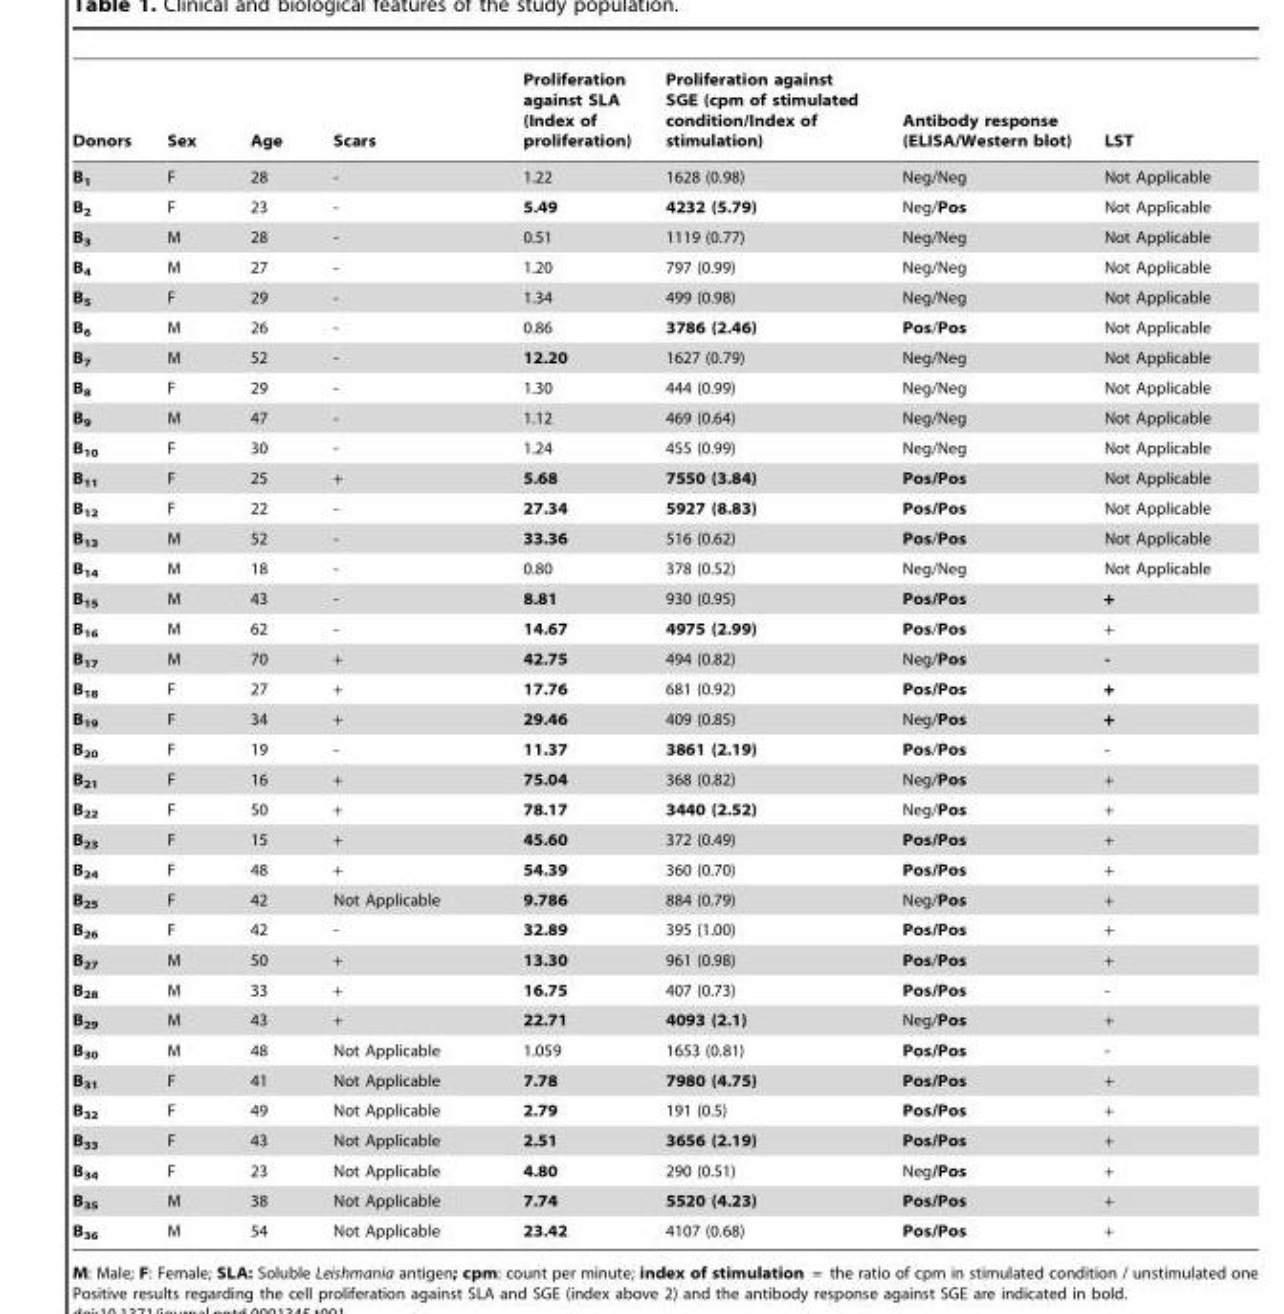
<table><thead><tr><td>Donors</td><td>Sex</td><td>Age</td><td>Scars</td><td>Proliferation against SLA (Index of proliferation)</td><td>Proliferation against SGE (cpm of stimulated condition/Index of stimulation)</td><td>Antibody response (ELISA/Western blot)</td><td>LST</td></tr></thead><tbody><tr><td>B<sub>1</sub></td><td>F</td><td>28</td><td>-</td><td>1.22</td><td>1628 (0.98)</td><td>Neg/Neg</td><td>Not Applicable</td></tr><tr><td>B<sub>2</sub></td><td>F</td><td>23</td><td>-</td><td>5.49</td><td>4232 (5.79)</td><td>Neg/Pos</td><td>Not Applicable</td></tr><tr><td>B<sub>3</sub></td><td>M</td><td>28</td><td>-</td><td>0.51</td><td>1119 (0.77)</td><td>Neg/Neg</td><td>Not Applicable</td></tr><tr><td>B<sub>4</sub></td><td>M</td><td>27</td><td>-</td><td>1.20</td><td>797 (0.99)</td><td>Neg/Neg</td><td>Not Applicable</td></tr><tr><td>B<sub>5</sub></td><td>F</td><td>29</td><td>-</td><td>1.34</td><td>499 (0.98)</td><td>Neg/Neg</td><td>Not Applicable</td></tr><tr><td>B<sub>6</sub></td><td>M</td><td>26</td><td>-</td><td>0.86</td><td>3786 (2.46)</td><td>Pos/Pos</td><td>Not Applicable</td></tr><tr><td>B<sub>7</sub></td><td>M</td><td>52</td><td>-</td><td>12.20</td><td>1627 (0.79)</td><td>Neg/Neg</td><td>Not Applicable</td></tr><tr><td>B<sub>8</sub></td><td>F</td><td>29</td><td>-</td><td>1.30</td><td>444 (0.99)</td><td>Neg/Neg</td><td>Not Applicable</td></tr><tr><td>B<sub>9</sub></td><td>M</td><td>47</td><td>-</td><td>1.12</td><td>469 (0.64)</td><td>Neg/Neg</td><td>Not Applicable</td></tr><tr><td>B<sub>10</sub></td><td>F</td><td>30</td><td>-</td><td>1.24</td><td>455 (0.99)</td><td>Neg/Neg</td><td>Not Applicable</td></tr><tr><td>B<sub>11</sub></td><td>F</td><td>25</td><td>+</td><td>5.68</td><td>7550 (3.84)</td><td>Pos/Pos</td><td>Not Applicable</td></tr><tr><td>B<sub>12</sub></td><td>F</td><td>22</td><td>-</td><td>27.34</td><td>5927 (8.83)</td><td>Pos/Pos</td><td>Not Applicable</td></tr><tr><td>B<sub>13</sub></td><td>M</td><td>52</td><td>-</td><td>33.36</td><td>516 (0.62)</td><td>Pos/Pos</td><td>Not Applicable</td></tr><tr><td>B<sub>14</sub></td><td>M</td><td>18</td><td>-</td><td>0.80</td><td>378 (0.52)</td><td>Neg/Neg</td><td>Not Applicable</td></tr><tr><td>B<sub>15</sub></td><td>M</td><td>43</td><td>-</td><td>8.81</td><td>930 (0.95)</td><td>Pos/Pos</td><td>+</td></tr><tr><td>B<sub>16</sub></td><td>M</td><td>62</td><td>-</td><td>14.67</td><td>4975 (2.99)</td><td>Pos/Pos</td><td>+</td></tr><tr><td>B<sub>17</sub></td><td>M</td><td>70</td><td>+</td><td>42.75</td><td>494 (0.82)</td><td>Neg/Pos</td><td>-</td></tr><tr><td>B<sub>18</sub></td><td>F</td><td>27</td><td>+</td><td>17.76</td><td>681 (0.92)</td><td>Pos/Pos</td><td>+</td></tr><tr><td>B<sub>19</sub></td><td>F</td><td>34</td><td>+</td><td>29.46</td><td>409 (0.85)</td><td>Neg/Pos</td><td>+</td></tr><tr><td>B<sub>20</sub></td><td>F</td><td>19</td><td>-</td><td>11.37</td><td>3861 (2.19)</td><td>Pos/Pos</td><td>-</td></tr><tr><td>B<sub>21</sub></td><td>F</td><td>16</td><td>+</td><td>75.04</td><td>368 (0.82)</td><td>Neg/Pos</td><td>+</td></tr><tr><td>B<sub>22</sub></td><td>F</td><td>50</td><td>+</td><td>78.17</td><td>3440 (2.52)</td><td>Neg/Pos</td><td>+</td></tr><tr><td>B<sub>23</sub></td><td>F</td><td>15</td><td>+</td><td>45.60</td><td>372 (0.49)</td><td>Pos/Pos</td><td>+</td></tr><tr><td>B<sub>24</sub></td><td>F</td><td>48</td><td>+</td><td>54.39</td><td>360 (0.70)</td><td>Pos/Pos</td><td>+</td></tr><tr><td>B<sub>25</sub></td><td>F</td><td>42</td><td>Not Applicable</td><td>9.786</td><td>884 (0.79)</td><td>Neg/Pos</td><td>+</td></tr><tr><td>B<sub>26</sub></td><td>F</td><td>42</td><td>-</td><td>32.89</td><td>395 (1.00)</td><td>Pos/Pos</td><td>+</td></tr><tr><td>B<sub>27</sub></td><td>M</td><td>50</td><td>+</td><td>13.30</td><td>961 (0.98)</td><td>Pos/Pos</td><td>+</td></tr><tr><td>B<sub>28</sub></td><td>M</td><td>33</td><td>+</td><td>16.75</td><td>407 (0.73)</td><td>Pos/Pos</td><td>-</td></tr><tr><td>B<sub>29</sub></td><td>M</td><td>43</td><td>+</td><td>22.71</td><td>4093 (2.1)</td><td>Neg/Pos</td><td>+</td></tr><tr><td>B<sub>30</sub></td><td>M</td><td>48</td><td>Not Applicable</td><td>1.059</td><td>1653 (0.81)</td><td>Pos/Pos</td><td>-</td></tr><tr><td>B<sub>31</sub></td><td>F</td><td>41</td><td>Not Applicable</td><td>7.78</td><td>7980 (4.75)</td><td>Pos/Pos</td><td>+</td></tr><tr><td>B<sub>32</sub></td><td>F</td><td>49</td><td>Not Applicable</td><td>2.79</td><td>191 (0.5)</td><td>Pos/Pos</td><td>+</td></tr><tr><td>B<sub>33</sub></td><td>F</td><td>43</td><td>Not Applicable</td><td>2.51</td><td>3656 (2.19)</td><td>Pos/Pos</td><td>+</td></tr><tr><td>B<sub>34</sub></td><td>F</td><td>23</td><td>Not Applicable</td><td>4.80</td><td>290 (0.51)</td><td>Neg/Pos</td><td>+</td></tr><tr><td>B<sub>35</sub></td><td>M</td><td>38</td><td>Not Applicable</td><td>7.74</td><td>5520 (4.23)</td><td>Pos/Pos</td><td>+</td></tr><tr><td>B<sub>36</sub></td><td>M</td><td>54</td><td>Not Applicable</td><td>23.42</td><td>4107 (0.68)</td><td>Pos/Pos</td><td>+</td></tr></tbody></table>